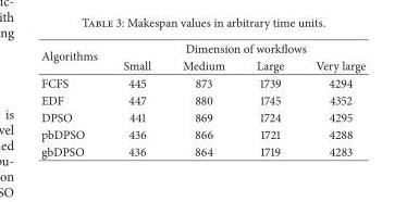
<table><thead><tr><td rowspan="2">Algorithms</td><td colspan="4">Dimension of workflows</td></tr><tr><td>Small</td><td>Medium</td><td>Large</td><td>Very large</td></tr></thead><tbody><tr><td>FCFS</td><td>445</td><td>873</td><td>1739</td><td>4294</td></tr><tr><td>EDF</td><td>447</td><td>880</td><td>1745</td><td>4352</td></tr><tr><td>DPSO</td><td>441</td><td>869</td><td>1724</td><td>4295</td></tr><tr><td>pbDPSO</td><td>436</td><td>866</td><td>1721</td><td>4288</td></tr><tr><td>gbDPSO</td><td>436</td><td>864</td><td>1719</td><td>4283</td></tr></tbody></table>